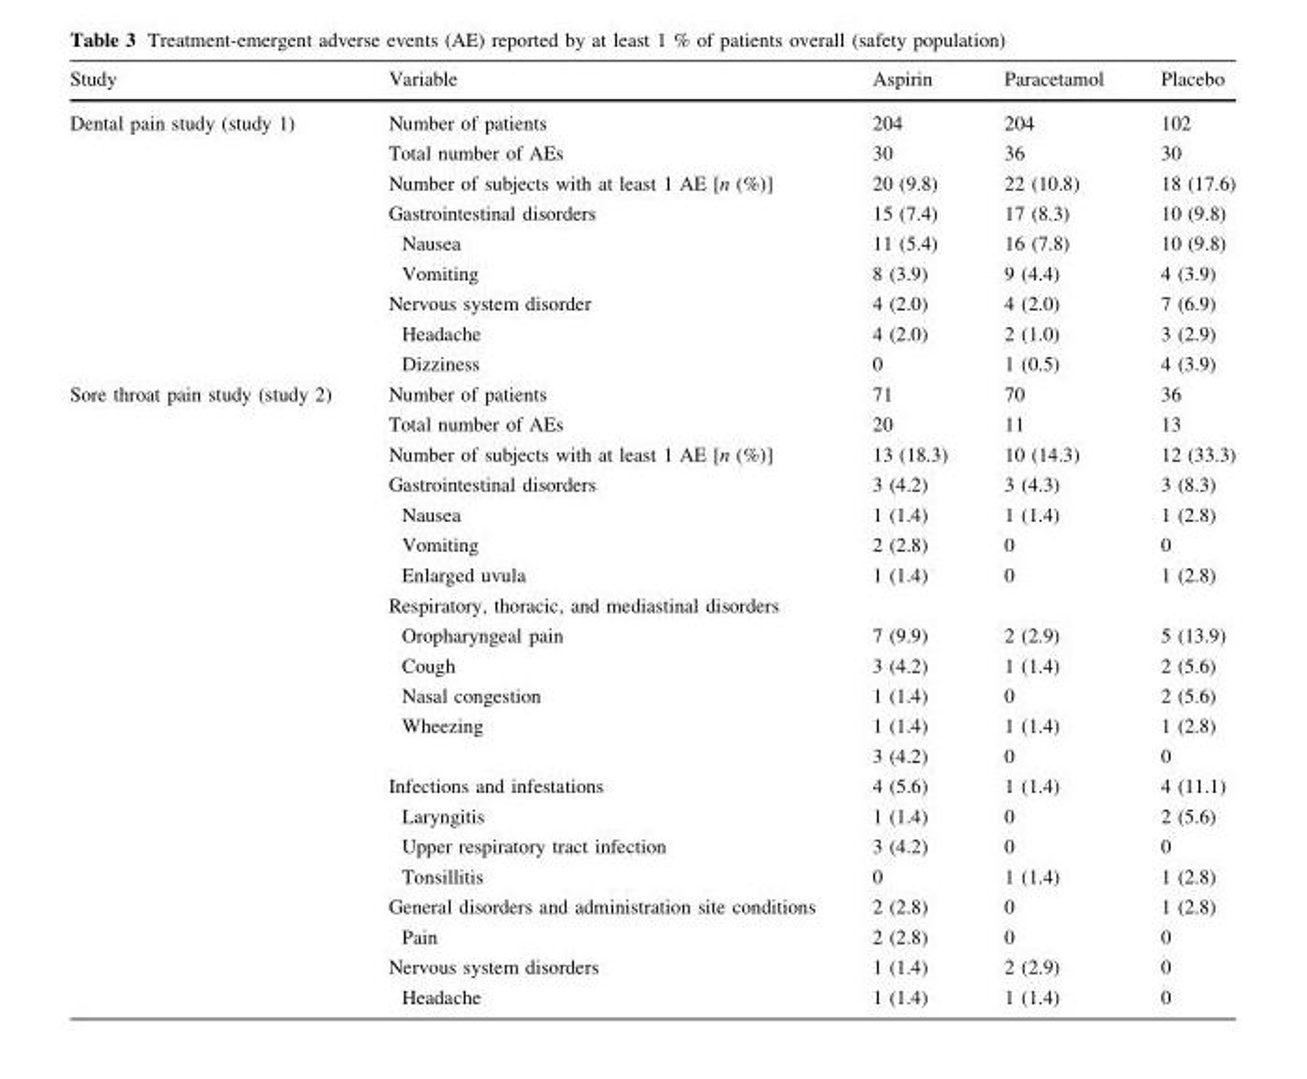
<table><thead><tr><td>Study</td><td>Variable</td><td>Aspirin</td><td>Paracetamol</td><td>Placebo</td></tr></thead><tbody><tr><td rowspan="9">Dental pain study (study 1)</td><td>Number of patients</td><td>204</td><td>204</td><td>102</td></tr><tr><td>Total number of AEs</td><td>30</td><td>36</td><td>30</td></tr><tr><td>Number of subjects with at least 1 AE [n (%)]</td><td>20 (9.8)</td><td>22 (10.8)</td><td>18 (17.6)</td></tr><tr><td>Gastrointestinal disorders</td><td>15 (7.4)</td><td>17 (8.3)</td><td>10 (9.8)</td></tr><tr><td>Nausea</td><td>11 (5.4)</td><td>16 (7.8)</td><td>10 (9.8)</td></tr><tr><td>Vomiting</td><td>8 (3.9)</td><td>9 (4.4)</td><td>4 (3.9)</td></tr><tr><td>Nervous system disorder</td><td>4 (2.0)</td><td>4 (2.0)</td><td>7 (6.9)</td></tr><tr><td>Headache</td><td>4 (2.0)</td><td>2 (1.0)</td><td>3 (2.9)</td></tr><tr><td>Dizziness</td><td>0</td><td>1 (0.5)</td><td>4 (3.9)</td></tr><tr><td rowspan="21">Sore throat pain study (study 2)</td><td>Number of patients</td><td>71</td><td>70</td><td>36</td></tr><tr><td>Total number of AEs</td><td>20</td><td>11</td><td>13</td></tr><tr><td>Number of subjects with at least 1 AE [n (%)]</td><td>13 (18.3)</td><td>10 (14.3)</td><td>12 (33.3)</td></tr><tr><td>Gastrointestinal disorders</td><td>3 (4.2)</td><td>3 (4.3)</td><td>3 (8.3)</td></tr><tr><td>Nausea</td><td>1 (1.4)</td><td>1 (1.4)</td><td>1 (2.8)</td></tr><tr><td>Vomiting</td><td>2 (2.8)</td><td>0</td><td>0</td></tr><tr><td>Enlarged uvula</td><td>1 (1.4)</td><td>0</td><td>1 (2.8)</td></tr><tr><td colspan="4">Respiratory, thoracic, and mediastinal disorders</td></tr><tr><td>Oropharyngeal pain</td><td>7 (9.9)</td><td>2 (2.9)</td><td>5 (13.9)</td></tr><tr><td>Cough</td><td>3 (4.2)</td><td>1 (1.4)</td><td>2 (5.6)</td></tr><tr><td>Nasal congestion</td><td>1 (1.4)</td><td>0</td><td>2 (5.6)</td></tr><tr><td>Wheezing</td><td>1 (1.4)</td><td>1 (1.4)</td><td>1 (2.8)</td></tr><tr><td></td><td>3 (4.2)</td><td>0</td><td>0</td></tr><tr><td>Infections and infestations</td><td>4 (5.6)</td><td>1 (1.4)</td><td>4 (11.1)</td></tr><tr><td>Laryngitis</td><td>1 (1.4)</td><td>0</td><td>2 (5.6)</td></tr><tr><td>Upper respiratory tract infection</td><td>3 (4.2)</td><td>0</td><td>0</td></tr><tr><td>Tonsillitis</td><td>0</td><td>1 (1.4)</td><td>1 (2.8)</td></tr><tr><td>General disorders and administration site conditions</td><td>2 (2.8)</td><td>0</td><td>1 (2.8)</td></tr><tr><td>Pain</td><td>2 (2.8)</td><td>0</td><td>0</td></tr><tr><td>Nervous system disorders</td><td>1 (1.4)</td><td>2 (2.9)</td><td>0</td></tr><tr><td>Headache</td><td>1 (1.4)</td><td>1 (1.4)</td><td>0</td></tr></tbody></table>